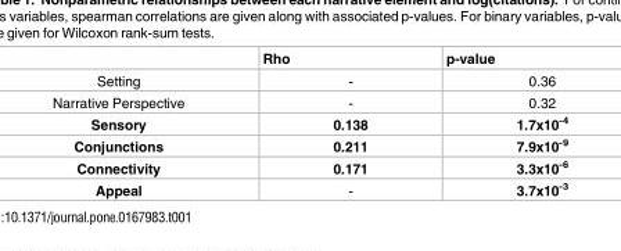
<table><thead><tr><td></td><td>Rho</td><td>p-value</td></tr></thead><tbody><tr><td>Setting</td><td>-</td><td>0.36</td></tr><tr><td>Narrative Perspective</td><td>-</td><td>0.32</td></tr><tr><td>Sensory</td><td>0.138</td><td>1.7x10<sup>-4</sup></td></tr><tr><td>Conjunctions</td><td>0.211</td><td>7.9x10<sup>-9</sup></td></tr><tr><td>Connectivity</td><td>0.171</td><td>3.3x10<sup>-6</sup></td></tr><tr><td>Appeal</td><td>-</td><td>3.7x10<sup>-3</sup></td></tr></tbody></table>